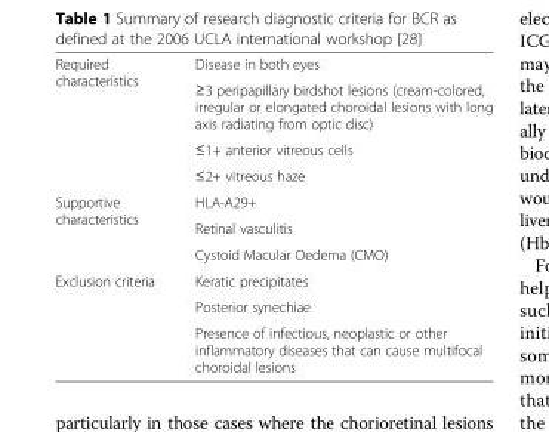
<table><tbody><tr><td rowspan="4">Required characteristics</td><td>Disease in both eyes</td></tr><tr><td>≥3 peripapillary birdshot lesions (cream-colored, irregular or elongated choroidal lesions with long axis radiating from optic disc)</td></tr><tr><td>≤1+ anterior vitreous cells</td></tr><tr><td>≤2+ vitreous haze</td></tr><tr><td rowspan="3">Supportive characteristics</td><td>HLA-A29+</td></tr><tr><td>Retinal vasculitis</td></tr><tr><td>Cystoid Macular Oedema (CMO)</td></tr><tr><td rowspan="3">Exclusion criteria</td><td>Keratic precipitates</td></tr><tr><td>Posterior synechiae</td></tr><tr><td>Presence of infectious, neoplastic or other inflammatory diseases that can cause multifocal choroidal lesions</td></tr></tbody></table>